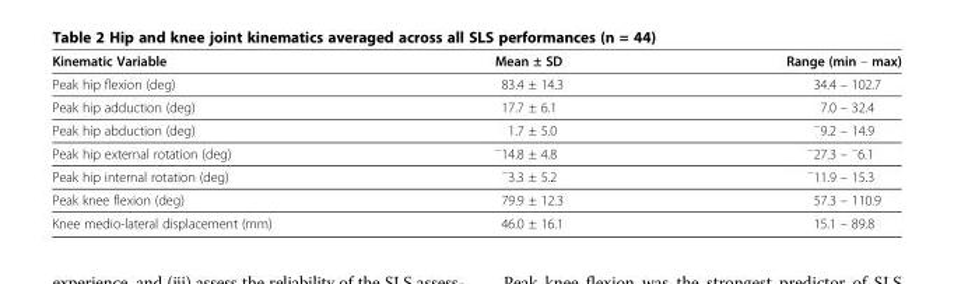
<table><thead><tr><td>Kinematic Variable</td><td>Mean ± SD</td><td>Range (min – max)</td></tr></thead><tbody><tr><td>Peak hip flexion (deg)</td><td>83.4 ± 14.3</td><td>34.4 – 102.7</td></tr><tr><td>Peak hip adduction (deg)</td><td>17.7 ± 6.1</td><td>7.0 – 32.4</td></tr><tr><td>Peak hip abduction (deg)</td><td>1.7 ± 5.0</td><td><sup>−</sup>9.2 – 14.9</td></tr><tr><td>Peak hip external rotation (deg)</td><td><sup>−</sup>14.8 ± 4.8</td><td><sup>−</sup>27.3 – <sup>−</sup>6.1</td></tr><tr><td>Peak hip internal rotation (deg)</td><td><sup>−</sup>3.3 ± 5.2</td><td><sup>−</sup>11.9 – 15.3</td></tr><tr><td>Peak knee flexion (deg)</td><td>79.9 ± 12.3</td><td>57.3 – 110.9</td></tr><tr><td>Knee medio-lateral displacement (mm)</td><td>46.0 ± 16.1</td><td>15.1 – 89.8</td></tr></tbody></table>